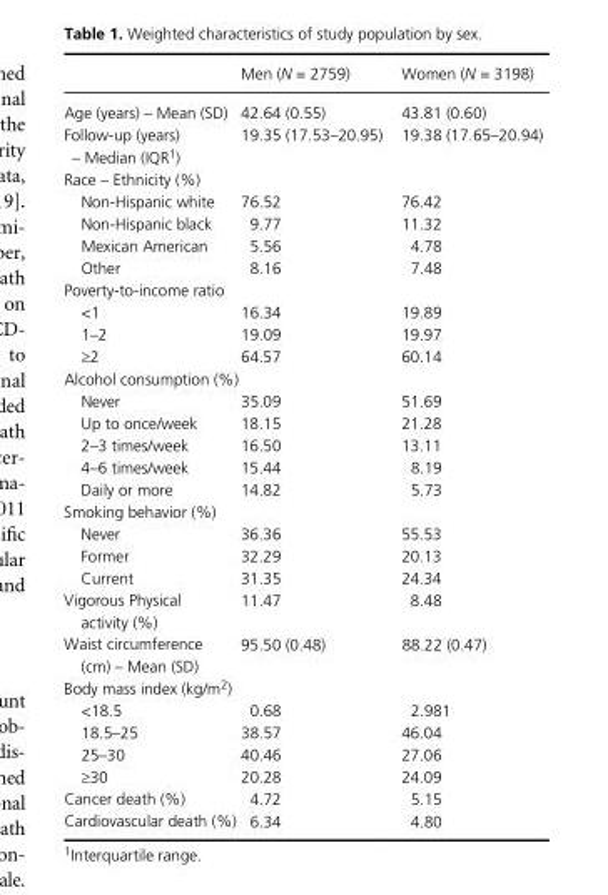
<table><thead><tr><td></td><td>Men (N = 2759)</td><td>Women (N = 3198)</td></tr></thead><tbody><tr><td>Age (years) – Mean (SD)</td><td>42.64 (0.55)</td><td>43.81 (0.60)</td></tr><tr><td>Follow- up (years) – Median (IQR1)</td><td>19.35 (17.53–20.95)</td><td>19.38 (17.65–20.94)</td></tr><tr><td colspan="3">Race – Ethnicity (%)</td></tr><tr><td>Non- Hispanic white</td><td>76.52</td><td>76.42</td></tr><tr><td>Non- Hispanic black</td><td>9.77</td><td>11.32</td></tr><tr><td>Mexican American</td><td>5.56</td><td>4.78</td></tr><tr><td>Other</td><td>8.16</td><td>7.48</td></tr><tr><td colspan="3">Poverty- to- income ratio</td></tr><tr><td>&lt;1</td><td>16.34</td><td>19.89</td></tr><tr><td>1–2</td><td>19.09</td><td>19.97</td></tr><tr><td>≥2</td><td>64.57</td><td>60.14</td></tr><tr><td colspan="3">Alcohol consumption (%)</td></tr><tr><td>Never</td><td>35.09</td><td>51.69</td></tr><tr><td>Up to once/week</td><td>18.15</td><td>21.28</td></tr><tr><td>2–3 times/week</td><td>16.50</td><td>13.11</td></tr><tr><td>4–6 times/week</td><td>15.44</td><td>8.19</td></tr><tr><td>Daily or more</td><td>14.82</td><td>5.73</td></tr><tr><td colspan="3">Smoking behavior (%)</td></tr><tr><td>Never</td><td>36.36</td><td>55.53</td></tr><tr><td>Former</td><td>32.29</td><td>20.13</td></tr><tr><td>Current</td><td>31.35</td><td>24.34</td></tr><tr><td>Vigorous Physical activity (%)</td><td>11.47</td><td>8.48</td></tr><tr><td>Waist circumference (cm) – Mean (SD)</td><td>95.50 (0.48)</td><td>88.22 (0.47)</td></tr><tr><td colspan="3">Body mass index (kg/m<sup>2</sup>)</td></tr><tr><td>&lt;18.5</td><td>0.68</td><td>2.981</td></tr><tr><td>18.5–25</td><td>38.57</td><td>46.04</td></tr><tr><td>25–30</td><td>40.46</td><td>27.06</td></tr><tr><td>≥30</td><td>20.28</td><td>24.09</td></tr><tr><td>Cancer death (%)</td><td>4.72</td><td>5.15</td></tr><tr><td>Cardiovascular death (%)</td><td>6.34</td><td>4.80</td></tr></tbody></table>